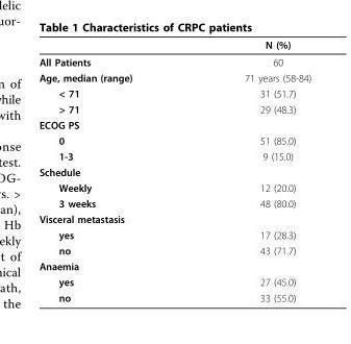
<table><thead><tr><td></td><td>N (%)</td></tr></thead><tbody><tr><td>All Patients</td><td>60</td></tr><tr><td>Age, median (range)</td><td>71 years (58-84)</td></tr><tr><td>&lt; 71</td><td>31 (51.7)</td></tr><tr><td>&gt; 71</td><td>29 (48.3)</td></tr><tr><td colspan="2">ECOG PS</td></tr><tr><td>0</td><td>51 (85.0)</td></tr><tr><td>1-3</td><td>9 (15.0)</td></tr><tr><td colspan="2">Schedule</td></tr><tr><td>Weekly</td><td>12 (20.0)</td></tr><tr><td>3 weeks</td><td>48 (80.0)</td></tr><tr><td colspan="2">Visceral metastasis</td></tr><tr><td>yes</td><td>17 (28.3)</td></tr><tr><td>no</td><td>43 (71.7)</td></tr><tr><td colspan="2">Anaemia</td></tr><tr><td>yes</td><td>27 (45.0)</td></tr><tr><td>no</td><td>33 (55.0)</td></tr></tbody></table>